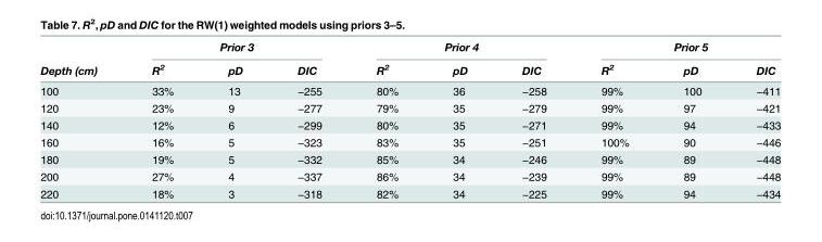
<table><thead><tr><td rowspan="2">Depth (cm)</td><td colspan="3">Prior 3</td><td colspan="3">Prior 4</td><td colspan="3">Prior 5</td></tr><tr><td>R<sup>2</sup></td><td>pD</td><td>DIC</td><td>R<sup>2</sup></td><td>pD</td><td>DIC</td><td>R<sup>2</sup></td><td>pD</td><td>DIC</td></tr></thead><tbody><tr><td>100</td><td>33%</td><td>13</td><td>−255</td><td>80%</td><td>36</td><td>−258</td><td>99%</td><td>100</td><td>−411</td></tr><tr><td>120</td><td>23%</td><td>9</td><td>−277</td><td>79%</td><td>35</td><td>−279</td><td>99%</td><td>97</td><td>−421</td></tr><tr><td>140</td><td>12%</td><td>6</td><td>−299</td><td>80%</td><td>35</td><td>−271</td><td>99%</td><td>94</td><td>−433</td></tr><tr><td>160</td><td>16%</td><td>5</td><td>−323</td><td>83%</td><td>35</td><td>−251</td><td>100%</td><td>90</td><td>−446</td></tr><tr><td>180</td><td>19%</td><td>5</td><td>−332</td><td>85%</td><td>34</td><td>−246</td><td>99%</td><td>89</td><td>−448</td></tr><tr><td>200</td><td>27%</td><td>4</td><td>−337</td><td>86%</td><td>34</td><td>−239</td><td>99%</td><td>89</td><td>−448</td></tr><tr><td>220</td><td>18%</td><td>3</td><td>−318</td><td>82%</td><td>34</td><td>−225</td><td>99%</td><td>94</td><td>−434</td></tr></tbody></table>